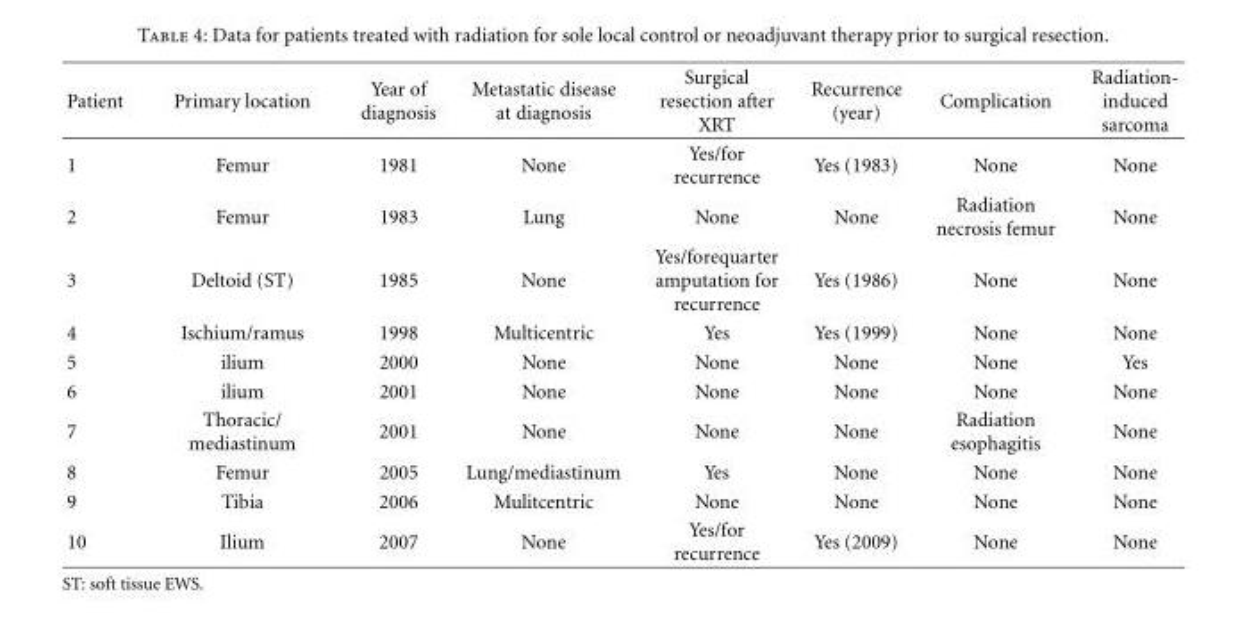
<table><thead><tr><td>Patient</td><td>Primary location</td><td>Year of diagnosis</td><td>Metastatic disease at diagnosis</td><td>Surgical resection after XRT</td><td>Recurrence (year)</td><td>Complication</td><td>Radiation- induced sarcoma</td></tr></thead><tbody><tr><td>1</td><td>Femur</td><td>1981</td><td>None</td><td>Yes/for recurrence</td><td>Yes (1983)</td><td>None</td><td>None</td></tr><tr><td>2</td><td>Femur</td><td>1983</td><td>Lung</td><td>None</td><td>None</td><td>Radiation necrosis femur</td><td>None</td></tr><tr><td>3</td><td>Deltoid (ST)</td><td>1985</td><td>None</td><td>Yes/forequarter amputation for recurrence</td><td>Yes (1986)</td><td>None</td><td>None</td></tr><tr><td>4</td><td>Ischium/ramus</td><td>1998</td><td>Multicentric</td><td>Yes</td><td>Yes (1999)</td><td>None</td><td>None</td></tr><tr><td>5</td><td>ilium</td><td>2000</td><td>None</td><td>None</td><td>None</td><td>None</td><td>Yes</td></tr><tr><td>6</td><td>ilium</td><td>2001</td><td>None</td><td>None</td><td>None</td><td>None</td><td>None</td></tr><tr><td>7</td><td>Thoracic/ mediastinum</td><td>2001</td><td>None</td><td>None</td><td>None</td><td>Radiation esophagitis</td><td>None</td></tr><tr><td>8</td><td>Femur</td><td>2005</td><td>Lung/mediastinum</td><td>Yes</td><td>None</td><td>None</td><td>None</td></tr><tr><td>9</td><td>Tibia</td><td>2006</td><td>Mulitcentric</td><td>None</td><td>None</td><td>None</td><td>None</td></tr><tr><td>10</td><td>Ilium</td><td>2007</td><td>None</td><td>Yes/for recurrence</td><td>Yes (2009)</td><td>None</td><td>None</td></tr></tbody></table>